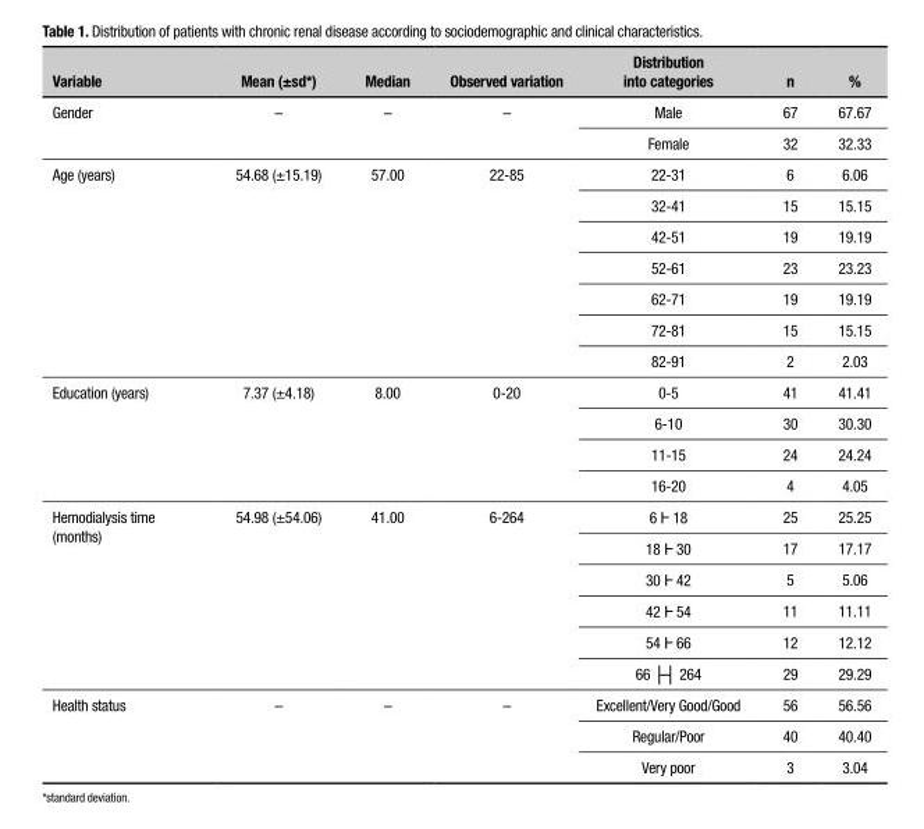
<table><thead><tr><td>Variable</td><td>Mean (±sd*)</td><td>Median</td><td>Observed variation</td><td>Distribution into categories</td><td>n</td><td>%</td></tr></thead><tbody><tr><td rowspan="2">Gender</td><td rowspan="2">–</td><td rowspan="2">–</td><td rowspan="2">–</td><td>Male</td><td>67</td><td>67.67</td></tr><tr><td>Female</td><td>32</td><td>32.33</td></tr><tr><td rowspan="7">Age (years)</td><td rowspan="7">54.68 (±15.19)</td><td rowspan="7">57.00</td><td rowspan="7">22-85</td><td>22-31</td><td>6</td><td>6.06</td></tr><tr><td>32-41</td><td>15</td><td>15.15</td></tr><tr><td>42-51</td><td>19</td><td>19.19</td></tr><tr><td>52-61</td><td>23</td><td>23.23</td></tr><tr><td>62-71</td><td>19</td><td>19.19</td></tr><tr><td>72-81</td><td>15</td><td>15.15</td></tr><tr><td>82-91</td><td>2</td><td>2.03</td></tr><tr><td rowspan="4">Education (years)</td><td rowspan="4">7.37 (±4.18)</td><td rowspan="4">8.00</td><td rowspan="4">0-20</td><td>0-5</td><td>41</td><td>41.41</td></tr><tr><td>6-10</td><td>30</td><td>30.30</td></tr><tr><td>11-15</td><td>24</td><td>24.24</td></tr><tr><td>16-20</td><td>4</td><td>4.05</td></tr><tr><td rowspan="6">Hemodialysis time (months)</td><td rowspan="6">54.98 (±54.06)</td><td rowspan="6">41.00</td><td rowspan="6">6-264</td><td>6 Ⱶ 18</td><td>25</td><td>25.25</td></tr><tr><td>18 Ⱶ 30</td><td>17</td><td>17.17</td></tr><tr><td>30 Ⱶ 42</td><td>5</td><td>5.06</td></tr><tr><td>42 Ⱶ 54</td><td>11</td><td>11.11</td></tr><tr><td>54 Ⱶ 66</td><td>12</td><td>12.12</td></tr><tr><td>66 ├┤ 264</td><td>29</td><td>29.29</td></tr><tr><td rowspan="3">Health status</td><td rowspan="3">–</td><td rowspan="3">–</td><td rowspan="3">–</td><td>Excellent/Very Good/Good</td><td>56</td><td>56.56</td></tr><tr><td>Regular/Poor</td><td>40</td><td>40.40</td></tr><tr><td>Very poor</td><td>3</td><td>3.04</td></tr></tbody></table>